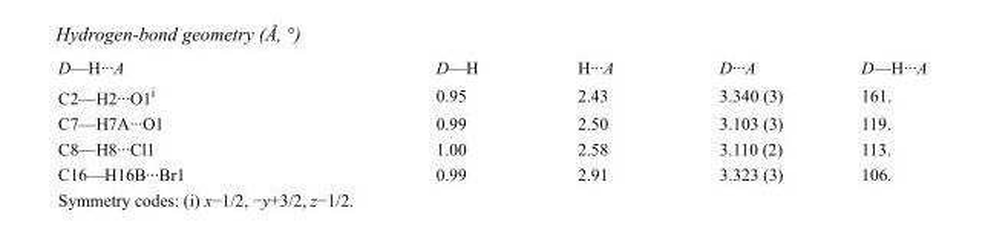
<table><tbody><tr><td>D—H···A</td><td>D—H</td><td>H···A</td><td>D···A</td><td>D—H···A</td></tr><tr><td>C2—H2···O1<sup>i</sup></td><td>0.95</td><td>2.43</td><td>3.340 (3)</td><td>161.</td></tr><tr><td>C7—H7A···O1</td><td>0.99</td><td>2.50</td><td>3.103 (3)</td><td>119.</td></tr><tr><td>C8—H8···Cl1</td><td>1.00</td><td>2.58</td><td>3.110 (2)</td><td>113.</td></tr><tr><td>C16—H16B···Br1</td><td>0.99</td><td>2.91</td><td>3.323 (3)</td><td>106.</td></tr></tbody></table>